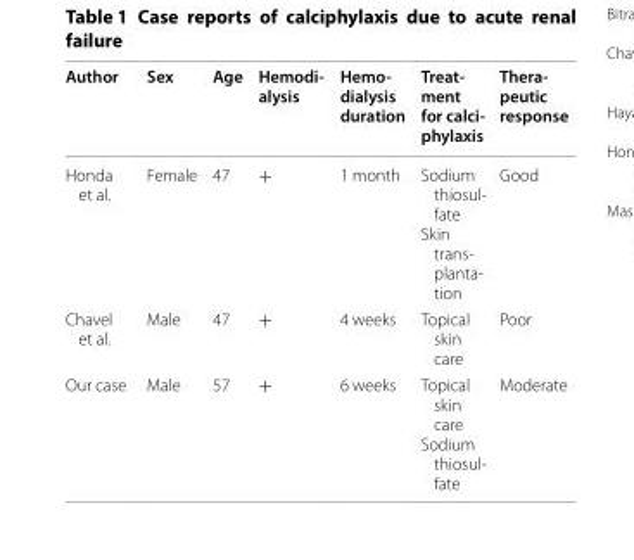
<table><thead><tr><td>Author</td><td>Sex</td><td>Age</td><td>Hemodi- alysis</td><td>Hemo- dialysis duration</td><td>Treat- ment for calci- phylaxis</td><td>Thera- peutic response</td></tr></thead><tbody><tr><td>Honda et al.</td><td>Female</td><td>47</td><td>+</td><td>1 month</td><td>Sodium thiosul- fate Skin trans- planta- tion</td><td>Good</td></tr><tr><td>Chavel et al.</td><td>Male</td><td>47</td><td>+</td><td>4 weeks</td><td>Topical skin care</td><td>Poor</td></tr><tr><td>Our case</td><td>Male</td><td>57</td><td>+</td><td>6 weeks</td><td>Topical skin care Sodium thiosul- fate</td><td>Moderate</td></tr></tbody></table>